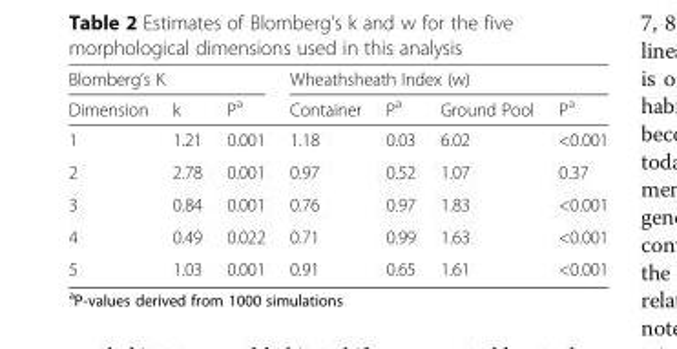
<table><thead><tr><td colspan="3">Blomberg’s K</td><td colspan="4">Wheathsheath Index (w)</td></tr><tr><td>Dimension</td><td>k</td><td>P<sup>a</sup></td><td>Container</td><td>P<sup>a</sup></td><td>Ground Pool</td><td>P<sup>a</sup></td></tr></thead><tbody><tr><td>1</td><td>1.21</td><td>0.001</td><td>1.18</td><td>0.03</td><td>6.02</td><td>&lt;0.001</td></tr><tr><td>2</td><td>2.78</td><td>0.001</td><td>0.97</td><td>0.52</td><td>1.07</td><td>0.37</td></tr><tr><td>3</td><td>0.84</td><td>0.001</td><td>0.76</td><td>0.97</td><td>1.83</td><td>&lt;0.001</td></tr><tr><td>4</td><td>0.49</td><td>0.022</td><td>0.71</td><td>0.99</td><td>1.63</td><td>&lt;0.001</td></tr><tr><td>5</td><td>1.03</td><td>0.001</td><td>0.91</td><td>0.65</td><td>1.61</td><td>&lt;0.001</td></tr></tbody></table>